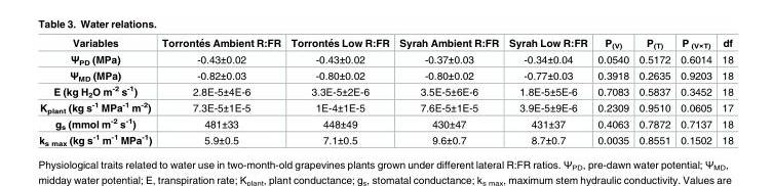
<table><thead><tr><td>Variables</td><td>Torronte´s Ambient R:FR</td><td>Torronte´s Low R:FR</td><td>Syrah Ambient R:FR</td><td>Syrah Low R:FR</td><td>P<sub>(V)</sub></td><td>P<sub>(T)</sub></td><td>P <sub>(V×T)</sub></td><td>df</td></tr></thead><tbody><tr><td>Ψ<sub>PD</sub> (MPa)</td><td>-0.43±0.02</td><td>-0.43±0.02</td><td>-0.37±0.03</td><td>-0.34±0.04</td><td>0.0540</td><td>0.5172</td><td>0.6014</td><td>18</td></tr><tr><td>Ψ<sub>MD</sub> (MPa)</td><td>-0.82±0.03</td><td>-0.80±0.02</td><td>-0.80±0.02</td><td>-0.77±0.03</td><td>0.3918</td><td>0.2635</td><td>0.9203</td><td>18</td></tr><tr><td>E (kg H<sub>2</sub>O m<sup>-2</sup> s<sup>-1</sup>)</td><td>2.8E-5±4E-6</td><td>3.3E-5±2E-6</td><td>3.5E-5±6E-6</td><td>1.8E-5±5E-6</td><td>0.7083</td><td>0.5837</td><td>0.3452</td><td>18</td></tr><tr><td>K<sub>plant</sub> (kg s<sup>-1</sup> MPa<sup>-1</sup> m<sup>-2</sup>)</td><td>7.3E-5±1E-5</td><td>1E-4±1E-5</td><td>7.6E-5±1E-5</td><td>3.9E-5±9E-6</td><td>0.2309</td><td>0.9510</td><td>0.0605</td><td>17</td></tr><tr><td>g<sub>s</sub> (mmol m<sup>-2</sup> s<sup>-1</sup>)</td><td>481±33</td><td>448±49</td><td>430±47</td><td>431±37</td><td>0.4063</td><td>0.7872</td><td>0.7137</td><td>18</td></tr><tr><td>k<sub>s max</sub> (kg s<sup>-1</sup> m<sup>-1</sup> MPa<sup>-1</sup>)</td><td>5.9±0.5</td><td>7.1±0.5</td><td>9.6±0.7</td><td>8.7±0.7</td><td>0.0035</td><td>0.8551</td><td>0.1502</td><td>18</td></tr></tbody></table>